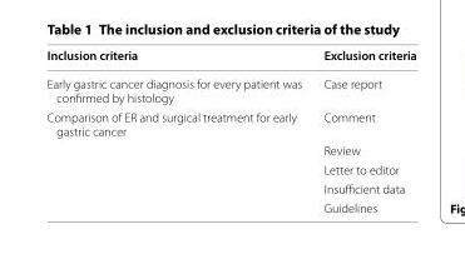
<table><thead><tr><td>Inclusion criteria</td><td>Exclusion criteria</td></tr></thead><tbody><tr><td>Early gastric cancer diagnosis for every patient was confirmed by histology</td><td>Case report</td></tr><tr><td rowspan="5">Comparison of ER and surgical treatment for early gastric cancer</td><td>Comment</td></tr><tr><td>Review</td></tr><tr><td>Letter to editor</td></tr><tr><td>Insufficient data</td></tr><tr><td>Guidelines</td></tr></tbody></table>